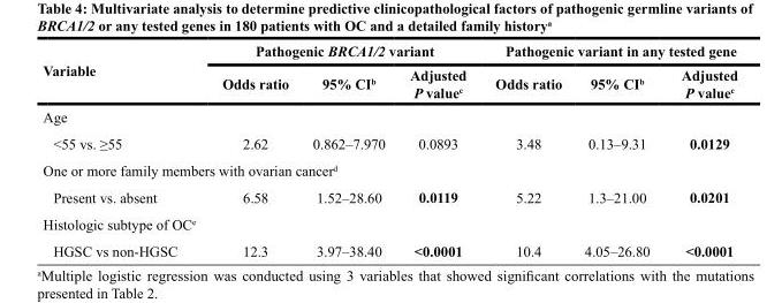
<table><thead><tr><td rowspan="2">Variable</td><td colspan="3">Pathogenic BRCA1/2 variant</td><td colspan="3">Pathogenic variant in any tested gene</td></tr><tr><td>Odds ratio</td><td>95% CI<sup>b</sup></td><td>Adjusted P value<sup>c</sup></td><td>Odds ratio</td><td>95% CI<sup>b</sup></td><td>Adjusted P value<sup>c</sup></td></tr></thead><tbody><tr><td colspan="7">Age</td></tr><tr><td>&lt;55 vs. ≥55</td><td>2.62</td><td>0.862–7.970</td><td>0.0893</td><td>3.48</td><td>0.13–9.31</td><td>0.0129</td></tr><tr><td colspan="7">One or more family members with ovarian cancer<sup>d</sup></td></tr><tr><td>Present vs. absent</td><td>6.58</td><td>1.52–28.60</td><td>0.0119</td><td>5.22</td><td>1.3–21.00</td><td>0.0201</td></tr><tr><td colspan="7">Histologic subtype of OC<sup>e</sup></td></tr><tr><td>HGSC vs non-HGSC</td><td>12.3</td><td>3.97–38.40</td><td>&lt;0.0001</td><td>10.4</td><td>4.05–26.80</td><td>&lt;0.0001</td></tr></tbody></table>